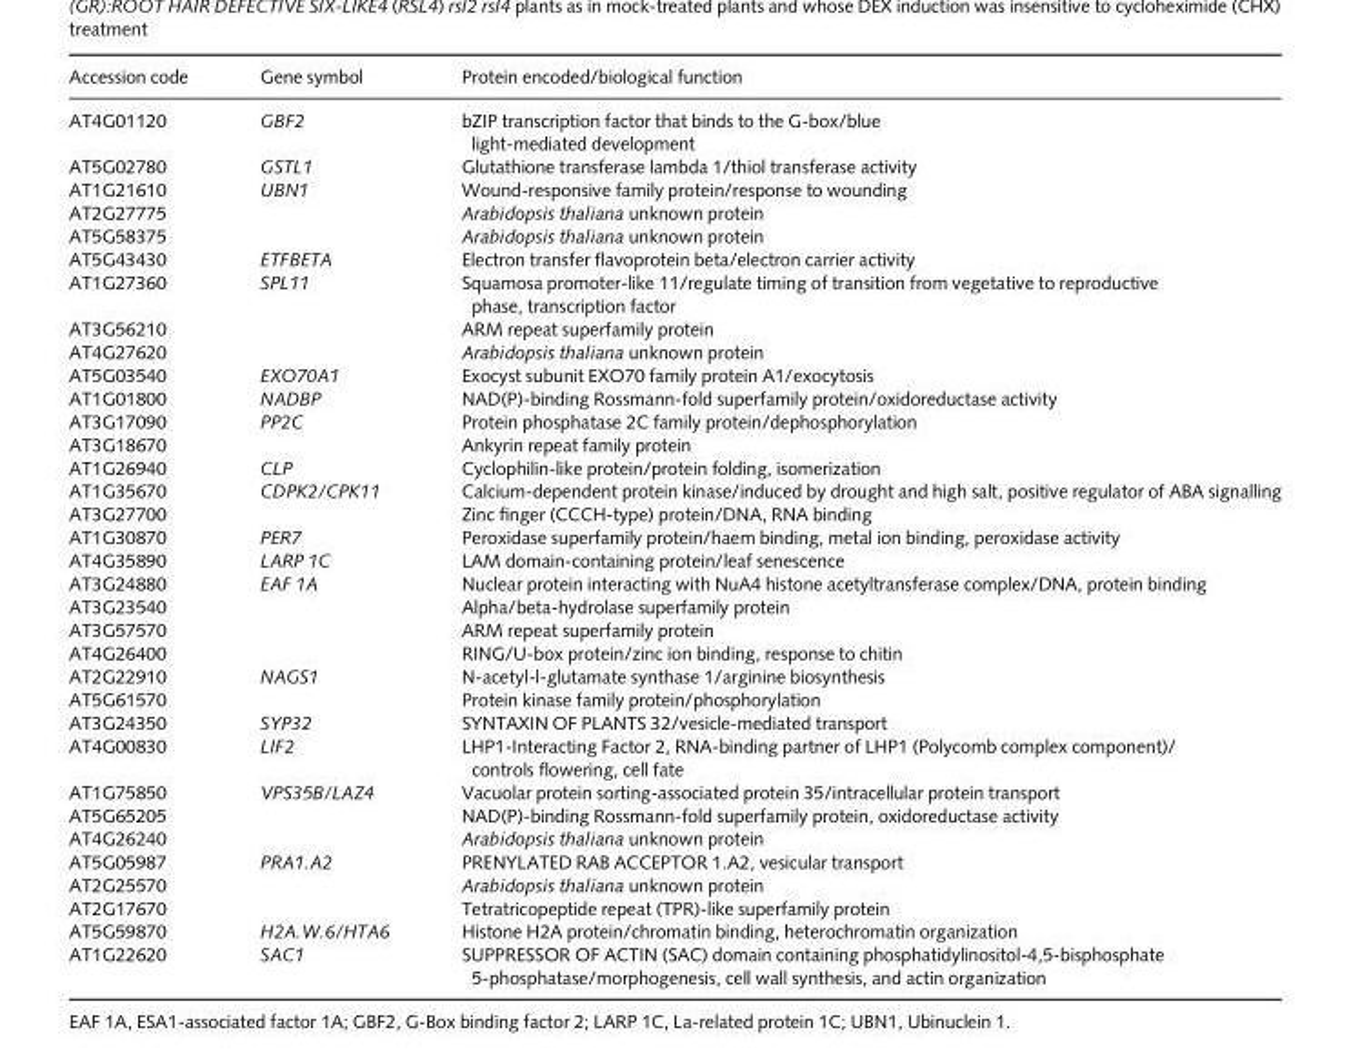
<table><thead><tr><td>Accession code</td><td>Gene symbol</td><td>Protein encoded/biological function</td></tr></thead><tbody><tr><td>AT4G01120</td><td>GBF2</td><td>bZIP transcription factor that binds to the G-box/blue light-mediated development</td></tr><tr><td>AT5G02780</td><td>GSTL1</td><td>Glutathione transferase lambda 1/thiol transferase activity</td></tr><tr><td>AT1G21610</td><td>UBN1</td><td>Wound-responsive family protein/response to wounding</td></tr><tr><td>AT2G27775</td><td></td><td>Arabidopsis thaliana unknown protein</td></tr><tr><td>AT5G58375</td><td></td><td>Arabidopsis thaliana unknown protein</td></tr><tr><td>AT5G43430</td><td>ETFBETA</td><td>Electron transfer flavoprotein beta/electron carrier activity</td></tr><tr><td>AT1G27360</td><td>SPL11</td><td>Squamosa promoter-like 11/regulate timing of transition from vegetative to reproductive phase, transcription factor</td></tr><tr><td>AT3G56210</td><td></td><td>ARM repeat superfamily protein</td></tr><tr><td>AT4G27620</td><td></td><td>Arabidopsis thaliana unknown protein</td></tr><tr><td>AT5G03540</td><td>EXO70A1</td><td>Exocyst subunit EXO70 family protein A1/exocytosis</td></tr><tr><td>AT1G01800</td><td>NADBP</td><td>NAD(P)-binding Rossmann-fold superfamily protein/oxidoreductase activity</td></tr><tr><td>AT3G17090</td><td>PP2C</td><td>Protein phosphatase 2C family protein/dephosphorylation</td></tr><tr><td>AT3G18670</td><td></td><td>Ankyrin repeat family protein</td></tr><tr><td>AT1G26940</td><td>CLP</td><td>Cyclophilin-like protein/protein folding, isomerization</td></tr><tr><td>AT1G35670</td><td>CDPK2/CPK11</td><td>Calcium-dependent protein kinase/induced by drought and high salt, positive regulator of ABA signalling</td></tr><tr><td>AT3G27700</td><td></td><td>Zinc finger (CCCH-type) protein/DNA, RNA binding</td></tr><tr><td>AT1G30870</td><td>PER7</td><td>Peroxidase superfamily protein/haem binding, metal ion binding, peroxidase activity</td></tr><tr><td>AT4G35890</td><td>LARP 1C</td><td>LAM domain-containing protein/leaf senescence</td></tr><tr><td>AT3G24880</td><td>EAF 1A</td><td>Nuclear protein interacting with NuA4 histone acetyltransferase complex/DNA, protein binding</td></tr><tr><td>AT3G23540</td><td></td><td>Alpha/beta-hydrolase superfamily protein</td></tr><tr><td>AT3G57570</td><td></td><td>ARM repeat superfamily protein</td></tr><tr><td>AT4G26400</td><td></td><td>RING/U-box protein/zinc ion binding, response to chitin</td></tr><tr><td>AT2G22910</td><td>NAGS1</td><td>N-acetyl-l-glutamate synthase 1/arginine biosynthesis</td></tr><tr><td>AT5G61570</td><td></td><td>Protein kinase family protein/phosphorylation</td></tr><tr><td>AT3G24350</td><td>SYP32</td><td>SYNTAXIN OF PLANTS 32/vesicle-mediated transport</td></tr><tr><td>AT4G00830</td><td>LIF2</td><td>LHP1-Interacting Factor 2, RNA-binding partner of LHP1 (Polycomb complex component)/ controls flowering, cell fate</td></tr><tr><td>AT1G75850</td><td>VPS35B/LAZ4</td><td>Vacuolar protein sorting-associated protein 35/intracellular protein transport</td></tr><tr><td>AT5G65205</td><td></td><td>NAD(P)-binding Rossmann-fold superfamily protein, oxidoreductase activity</td></tr><tr><td>AT4G26240</td><td></td><td>Arabidopsis thaliana unknown protein</td></tr><tr><td>AT5G05987</td><td>PRA1.A2</td><td>PRENYLATED RAB ACCEPTOR 1.A2, vesicular transport</td></tr><tr><td>AT2G25570</td><td></td><td>Arabidopsis thaliana unknown protein</td></tr><tr><td>AT2G17670</td><td></td><td>Tetratricopeptide repeat (TPR)-like superfamily protein</td></tr><tr><td>AT5G59870</td><td>H2A.W.6/HTA6</td><td>Histone H2A protein/chromatin binding, heterochromatin organization</td></tr><tr><td>AT1G22620</td><td>SAC1</td><td>SUPPRESSOR OF ACTIN (SAC) domain containing phosphatidylinositol-4,5-bisphosphate 5-phosphatase/morphogenesis, cell wall synthesis, and actin organization</td></tr></tbody></table>